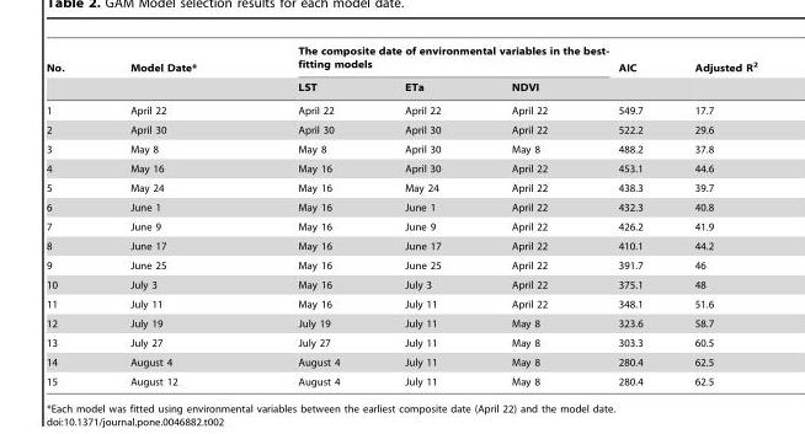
<table><thead><tr><td rowspan="2">No.</td><td rowspan="2">Model Date*</td><td colspan="3">The composite date of environmental variables in the best- fitting models</td><td rowspan="2">AIC</td><td rowspan="2">Adjusted R<sup>2</sup></td></tr><tr><td>LST</td><td>ETa</td><td>NDVI</td></tr></thead><tbody><tr><td>1</td><td>April 22</td><td>April 22</td><td>April 22</td><td>April 22</td><td>549.7</td><td>17.7</td></tr><tr><td>2</td><td>April 30</td><td>April 30</td><td>April 30</td><td>April 22</td><td>522.2</td><td>29.6</td></tr><tr><td>3</td><td>May 8</td><td>May 8</td><td>April 30</td><td>May 8</td><td>488.2</td><td>37.8</td></tr><tr><td>4</td><td>May 16</td><td>May 16</td><td>April 30</td><td>April 22</td><td>453.1</td><td>44.6</td></tr><tr><td>5</td><td>May 24</td><td>May 16</td><td>May 24</td><td>April 22</td><td>438.3</td><td>39.7</td></tr><tr><td>6</td><td>June 1</td><td>May 16</td><td>June 1</td><td>April 22</td><td>432.3</td><td>40.8</td></tr><tr><td>7</td><td>June 9</td><td>May 16</td><td>June 9</td><td>April 22</td><td>426.2</td><td>41.9</td></tr><tr><td>8</td><td>June 17</td><td>May 16</td><td>June 17</td><td>April 22</td><td>410.1</td><td>44.2</td></tr><tr><td>9</td><td>June 25</td><td>May 16</td><td>June 25</td><td>April 22</td><td>391.7</td><td>46</td></tr><tr><td>10</td><td>July 3</td><td>May 16</td><td>July 3</td><td>April 22</td><td>375.1</td><td>48</td></tr><tr><td>11</td><td>July 11</td><td>May 16</td><td>July 11</td><td>April 22</td><td>348.1</td><td>51.6</td></tr><tr><td>12</td><td>July 19</td><td>July 19</td><td>July 11</td><td>May 8</td><td>323.6</td><td>58.7</td></tr><tr><td>13</td><td>July 27</td><td>July 27</td><td>July 11</td><td>May 8</td><td>303.3</td><td>60.5</td></tr><tr><td>14</td><td>August 4</td><td>August 4</td><td>July 11</td><td>May 8</td><td>280.4</td><td>62.5</td></tr><tr><td>15</td><td>August 12</td><td>August 4</td><td>July 11</td><td>May 8</td><td>280.4</td><td>62.5</td></tr></tbody></table>